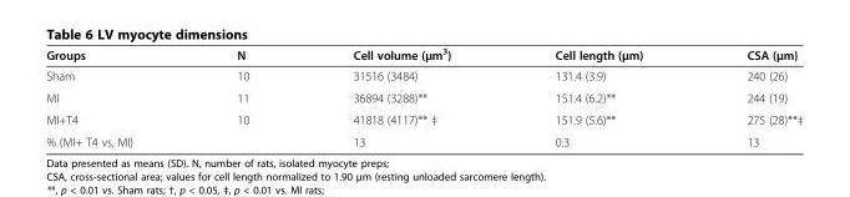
<table><thead><tr><td>Groups</td><td>N</td><td>Cell volume (μm<sup>3</sup>)</td><td>Cell length (μm)</td><td>CSA (μm)</td></tr></thead><tbody><tr><td>Sham</td><td>10</td><td>31516 (3484)</td><td>131.4 (3.9)</td><td>240 (26)</td></tr><tr><td>MI</td><td>11</td><td>36894 (3288)**</td><td>151.4 (6.2)**</td><td>244 (19)</td></tr><tr><td>MI+T4</td><td>10</td><td>41818 (4117)** ‡</td><td>151.9 (5.6)**</td><td>275 (28)**‡</td></tr><tr><td>% (MI+ T4 vs. MI)</td><td></td><td>13</td><td>0.3</td><td>13</td></tr></tbody></table>